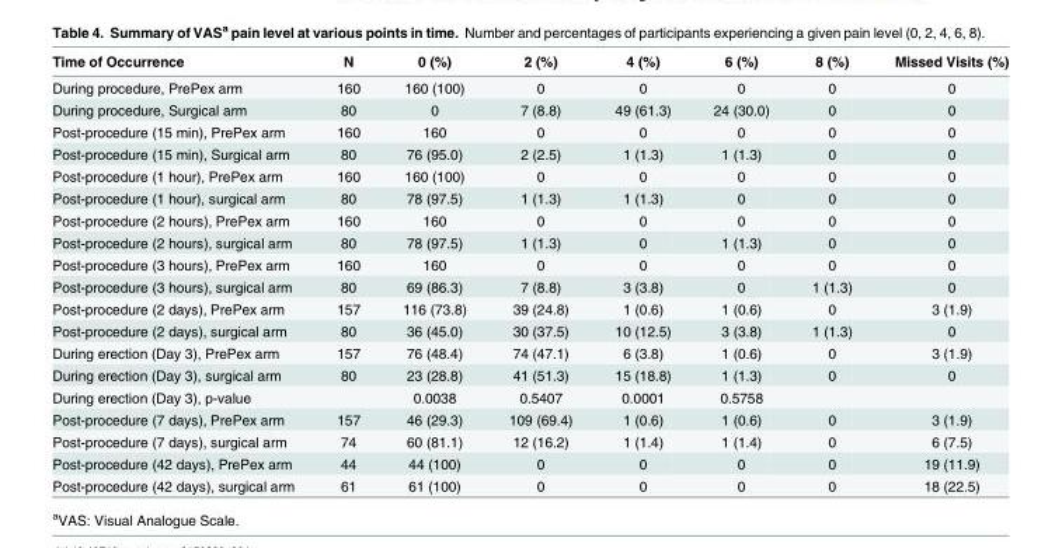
<table><thead><tr><td>Time of Occurrence</td><td>N</td><td>0 (%)</td><td>2 (%)</td><td>4 (%)</td><td>6 (%)</td><td>8 (%)</td><td>Missed Visits (%)</td></tr></thead><tbody><tr><td>During procedure, PrePex arm</td><td>160</td><td>160 (100)</td><td>0</td><td>0</td><td>0</td><td>0</td><td>0</td></tr><tr><td>During procedure, Surgical arm</td><td>80</td><td>0</td><td>7 (8.8)</td><td>49 (61.3)</td><td>24 (30.0)</td><td>0</td><td>0</td></tr><tr><td>Post-procedure (15 min), PrePex arm</td><td>160</td><td>160</td><td>0</td><td>0</td><td>0</td><td>0</td><td>0</td></tr><tr><td>Post-procedure (15 min), Surgical arm</td><td>80</td><td>76 (95.0)</td><td>2 (2.5)</td><td>1 (1.3)</td><td>1 (1.3)</td><td>0</td><td>0</td></tr><tr><td>Post-procedure (1 hour), PrePex arm</td><td>160</td><td>160 (100)</td><td>0</td><td>0</td><td>0</td><td>0</td><td>0</td></tr><tr><td>Post-procedure (1 hour), surgical arm</td><td>80</td><td>78 (97.5)</td><td>1 (1.3)</td><td>1 (1.3)</td><td>0</td><td>0</td><td>0</td></tr><tr><td>Post-procedure (2 hours), PrePex arm</td><td>160</td><td>160</td><td>0</td><td>0</td><td>0</td><td>0</td><td>0</td></tr><tr><td>Post-procedure (2 hours), surgical arm</td><td>80</td><td>78 (97.5)</td><td>1 (1.3)</td><td>0</td><td>1 (1.3)</td><td>0</td><td>0</td></tr><tr><td>Post-procedure (3 hours), PrePex arm</td><td>160</td><td>160</td><td>0</td><td>0</td><td>0</td><td>0</td><td>0</td></tr><tr><td>Post-procedure (3 hours), surgical arm</td><td>80</td><td>69 (86.3)</td><td>7 (8.8)</td><td>3 (3.8)</td><td>0</td><td>1 (1.3)</td><td>0</td></tr><tr><td>Post-procedure (2 days), PrePex arm</td><td>157</td><td>116 (73.8)</td><td>39 (24.8)</td><td>1 (0.6)</td><td>1 (0.6)</td><td>0</td><td>3 (1.9)</td></tr><tr><td>Post-procedure (2 days), surgical arm</td><td>80</td><td>36 (45.0)</td><td>30 (37.5)</td><td>10 (12.5)</td><td>3 (3.8)</td><td>1 (1.3)</td><td>0</td></tr><tr><td>During erection (Day 3), PrePex arm</td><td>157</td><td>76 (48.4)</td><td>74 (47.1)</td><td>6 (3.8)</td><td>1 (0.6)</td><td>0</td><td>3 (1.9)</td></tr><tr><td>During erection (Day 3), surgical arm</td><td>80</td><td>23 (28.8)</td><td>41 (51.3)</td><td>15 (18.8)</td><td>1 (1.3)</td><td>0</td><td>0</td></tr><tr><td>During erection (Day 3), p-value</td><td></td><td>0.0038</td><td>0.5407</td><td>0.0001</td><td>0.5758</td><td></td><td></td></tr><tr><td>Post-procedure (7 days), PrePex arm</td><td>157</td><td>46 (29.3)</td><td>109 (69.4)</td><td>1 (0.6)</td><td>1 (0.6)</td><td>0</td><td>3 (1.9)</td></tr><tr><td>Post-procedure (7 days), surgical arm</td><td>74</td><td>60 (81.1)</td><td>12 (16.2)</td><td>1 (1.4)</td><td>1 (1.4)</td><td>0</td><td>6 (7.5)</td></tr><tr><td>Post-procedure (42 days), PrePex arm</td><td>44</td><td>44 (100)</td><td>0</td><td>0</td><td>0</td><td>0</td><td>19 (11.9)</td></tr><tr><td>Post-procedure (42 days), surgical arm</td><td>61</td><td>61 (100)</td><td>0</td><td>0</td><td>0</td><td>0</td><td>18 (22.5)</td></tr></tbody></table>